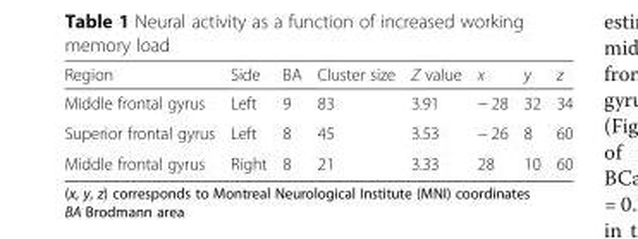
<table><thead><tr><td>Region</td><td>Side</td><td>BA</td><td>Cluster size</td><td>Z value</td><td>x</td><td>y</td><td>z</td></tr></thead><tbody><tr><td>Middle frontal gyrus</td><td>Left</td><td>9</td><td>83</td><td>3.91</td><td>− 28</td><td>32</td><td>34</td></tr><tr><td>Superior frontal gyrus</td><td>Left</td><td>8</td><td>45</td><td>3.53</td><td>− 26</td><td>8</td><td>60</td></tr><tr><td>Middle frontal gyrus</td><td>Right</td><td>8</td><td>21</td><td>3.33</td><td>28</td><td>10</td><td>60</td></tr></tbody></table>